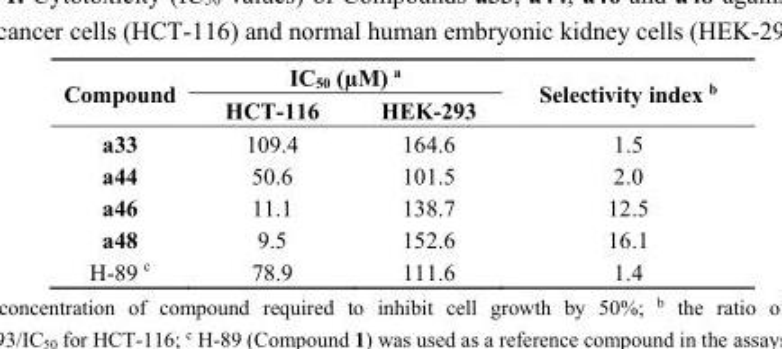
<table><thead><tr><td rowspan="2">Compound</td><td colspan="2">IC<sub>50</sub> (µM) <sup>a</sup></td><td rowspan="2">Selectivity index <sup>b</sup></td></tr><tr><td>HCT-116</td><td>HEK-293</td></tr></thead><tbody><tr><td>a33</td><td>109.4</td><td>164.6</td><td>1.5</td></tr><tr><td>a44</td><td>50.6</td><td>101.5</td><td>2.0</td></tr><tr><td>a46</td><td>11.1</td><td>138.7</td><td>12.5</td></tr><tr><td>a48</td><td>9.5</td><td>152.6</td><td>16.1</td></tr><tr><td>H-89 <sup>c</sup></td><td>78.9</td><td>111.6</td><td>1.4</td></tr></tbody></table>